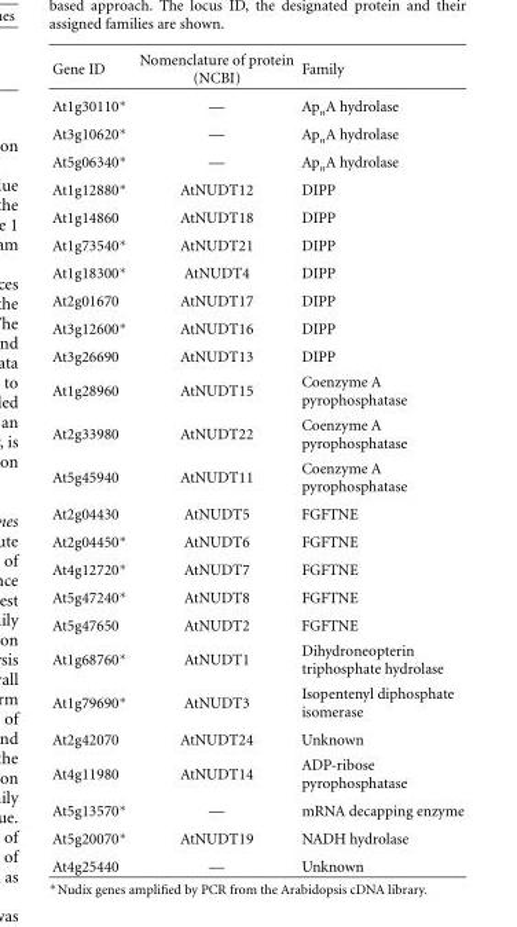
<table><thead><tr><td>Gene ID</td><td>Nomenclature of protein (NCBI)</td><td>Family</td></tr></thead><tbody><tr><td>At1g30110∗</td><td>—</td><td>Ap<sub>n</sub>A hydrolase</td></tr><tr><td>At3g10620∗</td><td>—</td><td>Ap<sub>n</sub>A hydrolase</td></tr><tr><td>At5g06340∗</td><td>—</td><td>Ap<sub>n</sub>A hydrolase</td></tr><tr><td>At1g12880∗</td><td>AtNUDT12</td><td>DIPP</td></tr><tr><td>At1g14860</td><td>AtNUDT18</td><td>DIPP</td></tr><tr><td>At1g73540∗</td><td>AtNUDT21</td><td>DIPP</td></tr><tr><td>At1g18300∗</td><td>AtNUDT4</td><td>DIPP</td></tr><tr><td>At2g01670</td><td>AtNUDT17</td><td>DIPP</td></tr><tr><td>At3g12600∗</td><td>AtNUDT16</td><td>DIPP</td></tr><tr><td>At3g26690</td><td>AtNUDT13</td><td>DIPP</td></tr><tr><td>At1g28960</td><td>AtNUDT15</td><td>Coenzyme A pyrophosphatase</td></tr><tr><td>At2g33980</td><td>AtNUDT22</td><td>Coenzyme A pyrophosphatase</td></tr><tr><td>At5g45940</td><td>AtNUDT11</td><td>Coenzyme A pyrophosphatase</td></tr><tr><td>At2g04430</td><td>AtNUDT5</td><td>FGFTNE</td></tr><tr><td>At2g04450∗</td><td>AtNUDT6</td><td>FGFTNE</td></tr><tr><td>At4g12720∗</td><td>AtNUDT7</td><td>FGFTNE</td></tr><tr><td>At5g47240∗</td><td>AtNUDT8</td><td>FGFTNE</td></tr><tr><td>At5g47650</td><td>AtNUDT2</td><td>FGFTNE</td></tr><tr><td>At1g68760∗</td><td>AtNUDT1</td><td>Dihydroneopterin triphosphate hydrolase</td></tr><tr><td>At1g79690∗</td><td>AtNUDT3</td><td>Isopentenyl diphosphate isomerase</td></tr><tr><td>At2g42070</td><td>AtNUDT24</td><td>Unknown</td></tr><tr><td>At4g11980</td><td>AtNUDT14</td><td>ADP-ribose pyrophosphatase</td></tr><tr><td>At5g13570∗</td><td>—</td><td>mRNA decapping enzyme</td></tr><tr><td>At5g20070∗</td><td>AtNUDT19</td><td>NADH hydrolase</td></tr><tr><td>At4g25440</td><td>—</td><td>Unknown</td></tr></tbody></table>